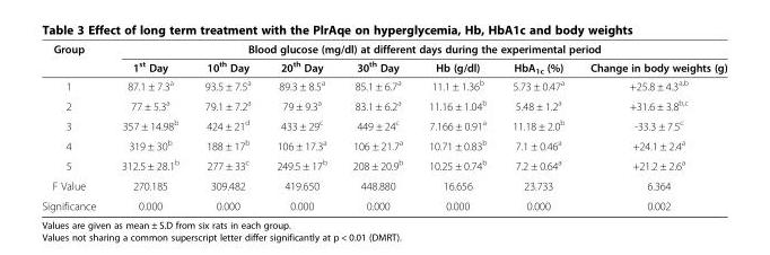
<table><thead><tr><td rowspan="2">Group</td><td colspan="7">Blood glucose (mg/dl) at different days during the experimental period</td></tr><tr><td>1<sup>st</sup> Day</td><td>10<sup>th</sup> Day</td><td>20<sup>th</sup> Day</td><td>30<sup>th</sup> Day</td><td>Hb (g/dl)</td><td>HbA<sub>1c</sub> (%)</td><td>Change in body weights (g)</td></tr></thead><tbody><tr><td>1</td><td>87.1 ± 7.3<sup>a</sup></td><td>93.5 ± 7.5<sup>a</sup></td><td>89.3 ± 8.5<sup>a</sup></td><td>85.1 ± 6.7<sup>a</sup></td><td>11.1 ± 1.36<sup>b</sup></td><td>5.73 ± 0.47<sup>a</sup></td><td>+25.8 ± 4.3<sup>a,b</sup></td></tr><tr><td>2</td><td>77 ± 5.3<sup>a</sup></td><td>79.1 ± 7.2<sup>a</sup></td><td>79 ± 9.3<sup>a</sup></td><td>83.1 ± 6.2<sup>a</sup></td><td>11.16 ± 1.04<sup>b</sup></td><td>5.48 ± 1.2<sup>a</sup></td><td>+31.6 ± 3.8<sup>b,c</sup></td></tr><tr><td>3</td><td>357 ± 14.98<sup>b</sup></td><td>424 ± 21<sup>d</sup></td><td>433 ± 29<sup>c</sup></td><td>449 ± 24<sup>c</sup></td><td>7.166 ± 0.91<sup>a</sup></td><td>11.18 ± 2.0<sup>b</sup></td><td>-33.3 ± 7.5<sup>c</sup></td></tr><tr><td>4</td><td>319 ± 30<sup>b</sup></td><td>188 ± 17<sup>b</sup></td><td>106 ± 17.3<sup>a</sup></td><td>106 ± 21.7<sup>a</sup></td><td>10.71 ± 0.83<sup>b</sup></td><td>7.1 ± 0.46<sup>a</sup></td><td>+24.1 ± 2.4<sup>a</sup></td></tr><tr><td>5</td><td>312.5 ± 28.1<sup>b</sup></td><td>277 ± 33<sup>c</sup></td><td>249.5 ± 17<sup>b</sup></td><td>208 ± 20.9<sup>b</sup></td><td>10.25 ± 0.74<sup>b</sup></td><td>7.2 ± 0.64<sup>a</sup></td><td>+21.2 ± 2.6<sup>a</sup></td></tr><tr><td>F Value</td><td>270.185</td><td>309.482</td><td>419.650</td><td>448.880</td><td>16.656</td><td>23.733</td><td>6.364</td></tr><tr><td>Significance</td><td>0.000</td><td>0.000</td><td>0.000</td><td>0.000</td><td>0.000</td><td>0.000</td><td>0.002</td></tr></tbody></table>